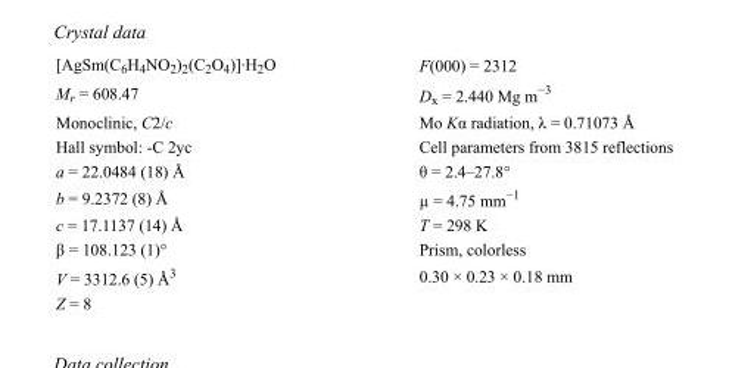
<table><tbody><tr><td>[AgSm(C<sub>6</sub>H<sub>4</sub>NO<sub>2</sub>)<sub>2</sub>(C<sub>2</sub>O<sub>4</sub>)]·H<sub>2</sub>O</td><td>F(000) = 2312</td></tr><tr><td>M<sub>r</sub> = 608.47</td><td>D<sub>x</sub> = 2.440 Mg m<sup>−3</sup></td></tr><tr><td>Monoclinic, C2/c</td><td>Mo Kα radiation, λ = 0.71073 Å</td></tr><tr><td>Hall symbol: -C 2yc</td><td>Cell parameters from 3815 reflections</td></tr><tr><td>a = 22.0484 (18) Å</td><td>θ = 2.4–27.8°</td></tr><tr><td>b = 9.2372 (8) Å</td><td>µ = 4.75 mm<sup>−1</sup></td></tr><tr><td>c = 17.1137 (14) Å</td><td>T = 298 K</td></tr><tr><td>β = 108.123 (1)°</td><td>Prism, colorless</td></tr><tr><td>V = 3312.6 (5) Å<sup>3</sup></td><td>0.30 × 0.23 × 0.18 mm</td></tr><tr><td>Z = 8</td><td></td></tr></tbody></table>